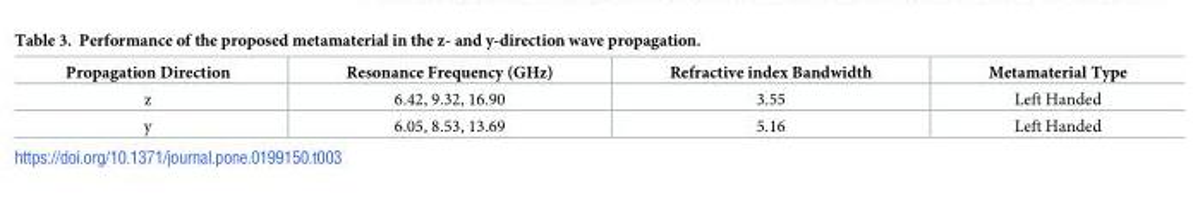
<table><thead><tr><td>Propagation Direction</td><td>Resonance Frequency (GHz)</td><td>Refractive index Bandwidth</td><td>Metamaterial Type</td></tr></thead><tbody><tr><td>z</td><td>6.42, 9.32, 16.90</td><td>3.55</td><td>Left Handed</td></tr><tr><td>y</td><td>6.05, 8.53, 13.69</td><td>5.16</td><td>Left Handed</td></tr></tbody></table>